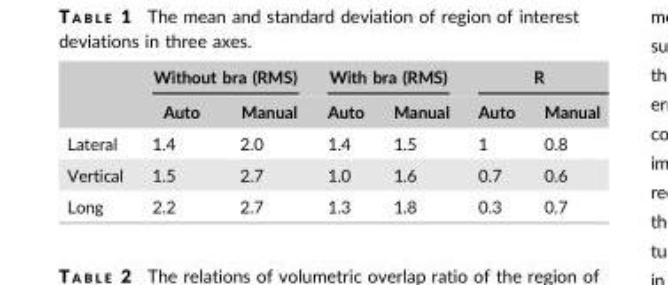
<table><thead><tr><td rowspan="2"></td><td colspan="2">Without bra (RMS)</td><td colspan="2">With bra (RMS)</td><td colspan="2">R</td></tr><tr><td>Auto</td><td>Manual</td><td>Auto</td><td>Manual</td><td>Auto</td><td>Manual</td></tr></thead><tbody><tr><td>Lateral</td><td>1.4</td><td>2.0</td><td>1.4</td><td>1.5</td><td>1</td><td>0.8</td></tr><tr><td>Vertical</td><td>1.5</td><td>2.7</td><td>1.0</td><td>1.6</td><td>0.7</td><td>0.6</td></tr><tr><td>Long</td><td>2.2</td><td>2.7</td><td>1.3</td><td>1.8</td><td>0.3</td><td>0.7</td></tr></tbody></table>